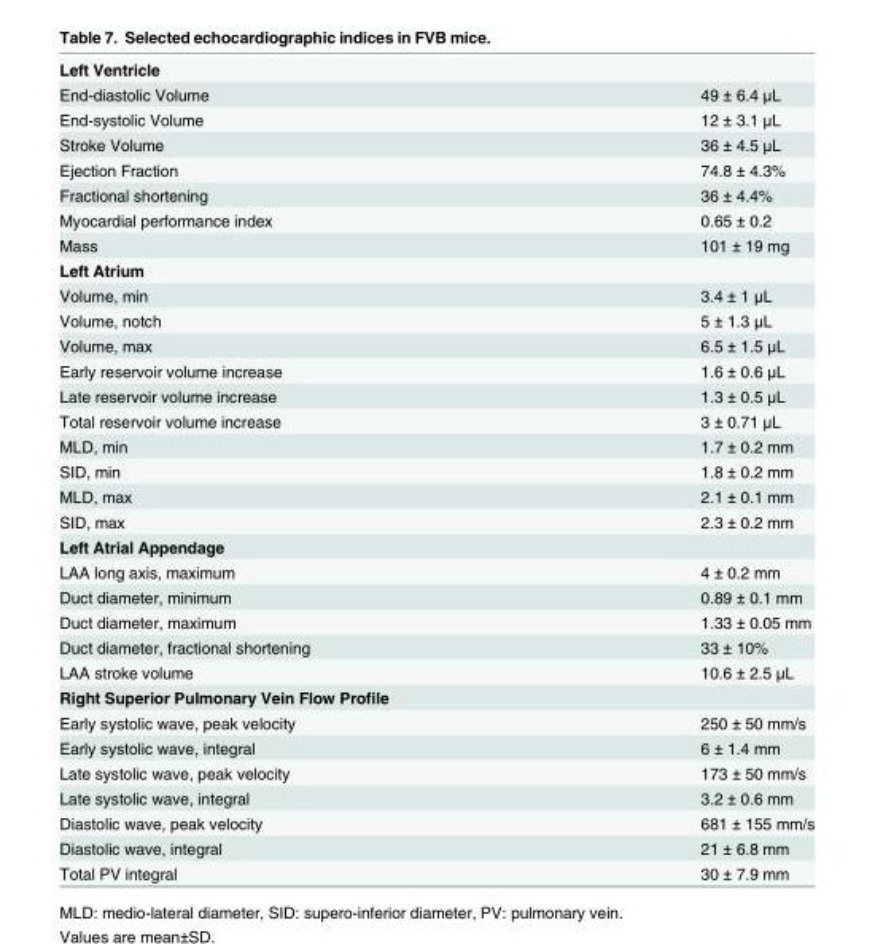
<table><tbody><tr><td colspan="2">Left Ventricle</td></tr><tr><td>End-diastolic Volume</td><td>49 ± 6.4 μL</td></tr><tr><td>End-systolic Volume</td><td>12 ± 3.1 μL</td></tr><tr><td>Stroke Volume</td><td>36 ± 4.5 μL</td></tr><tr><td>Ejection Fraction</td><td>74.8 ± 4.3%</td></tr><tr><td>Fractional shortening</td><td>36 ± 4.4%</td></tr><tr><td>Myocardial performance index</td><td>0.65 ± 0.2</td></tr><tr><td>Mass</td><td>101 ± 19 mg</td></tr><tr><td colspan="2">Left Atrium</td></tr><tr><td>Volume, min</td><td>3.4 ± 1 μL</td></tr><tr><td>Volume, notch</td><td>5 ± 1.3 μL</td></tr><tr><td>Volume, max</td><td>6.5 ± 1.5 μL</td></tr><tr><td>Early reservoir volume increase</td><td>1.6 ± 0.6 μL</td></tr><tr><td>Late reservoir volume increase</td><td>1.3 ± 0.5 μL</td></tr><tr><td>Total reservoir volume increase</td><td>3 ± 0.71 μL</td></tr><tr><td>MLD, min</td><td>1.7 ± 0.2 mm</td></tr><tr><td>SID, min</td><td>1.8 ± 0.2 mm</td></tr><tr><td>MLD, max</td><td>2.1 ± 0.1 mm</td></tr><tr><td>SID, max</td><td>2.3 ± 0.2 mm</td></tr><tr><td colspan="2">Left Atrial Appendage</td></tr><tr><td>LAA long axis, maximum</td><td>4 ± 0.2 mm</td></tr><tr><td>Duct diameter, minimum</td><td>0.89 ± 0.1 mm</td></tr><tr><td>Duct diameter, maximum</td><td>1.33 ± 0.05 mm</td></tr><tr><td>Duct diameter, fractional shortening</td><td>33 ± 10%</td></tr><tr><td>LAA stroke volume</td><td>10.6 ± 2.5 μL</td></tr><tr><td colspan="2">Right Superior Pulmonary Vein Flow Profile</td></tr><tr><td>Early systolic wave, peak velocity</td><td>250 ± 50 mm/s</td></tr><tr><td>Early systolic wave, integral</td><td>6 ± 1.4 mm</td></tr><tr><td>Late systolic wave, peak velocity</td><td>173 ± 50 mm/s</td></tr><tr><td>Late systolic wave, integral</td><td>3.2 ± 0.6 mm</td></tr><tr><td>Diastolic wave, peak velocity</td><td>681 ± 155 mm/s</td></tr><tr><td>Diastolic wave, integral</td><td>21 ± 6.8 mm</td></tr><tr><td>Total PV integral</td><td>30 ± 7.9 mm</td></tr></tbody></table>